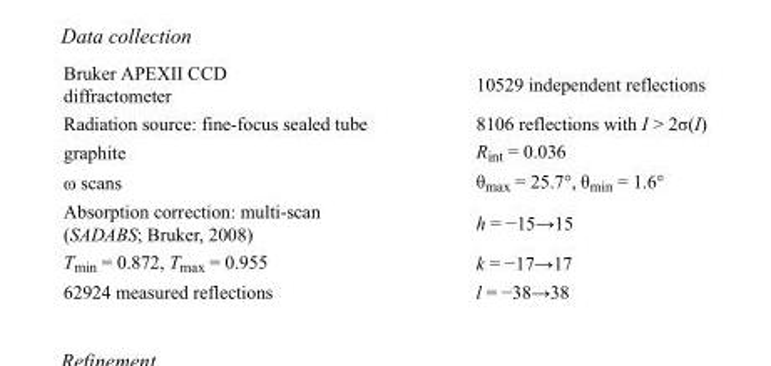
<table><tbody><tr><td>Bruker APEXII CCD diffractometer</td><td>10529 independent reflections</td></tr><tr><td>Radiation source: fine-focus sealed tube</td><td>8106 reflections with I &gt; 2σ(I)</td></tr><tr><td>graphite</td><td>R<sub>int</sub> = 0.036</td></tr><tr><td>ω scans</td><td>θ<sub>max</sub> = 25.7°, θ<sub>min</sub> = 1.6°</td></tr><tr><td>Absorption correction: multi-scan (SADABS; Bruker, 2008)</td><td>h = −15→15</td></tr><tr><td>T<sub>min</sub> = 0.872, T<sub>max</sub> = 0.955</td><td>k = −17→17</td></tr><tr><td>62924 measured reflections</td><td>l = −38→38</td></tr></tbody></table>